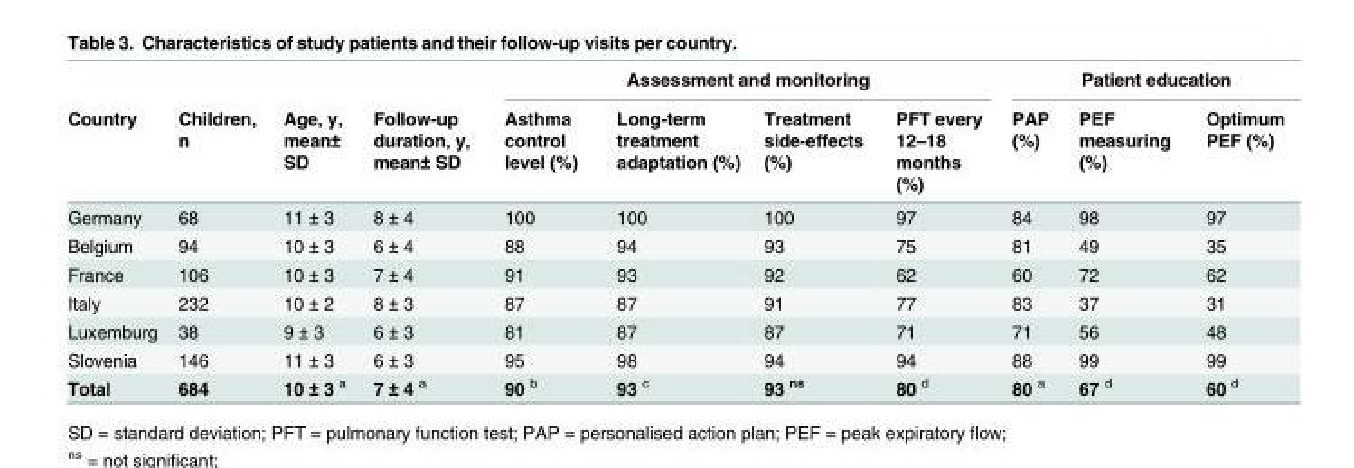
<table><thead><tr><td rowspan="2">Country</td><td rowspan="2">Children, n</td><td rowspan="2">Age, y, mean± SD</td><td rowspan="2">Follow-up duration, y, mean± SD</td><td colspan="4">Assessment and monitoring</td><td colspan="3">Patient education</td></tr><tr><td>Asthma control level (%)</td><td>Long-term treatment adaptation (%)</td><td>Treatment side-effects (%)</td><td>PFT every 12–18 months (%)</td><td>PAP (%)</td><td>PEF measuring (%)</td><td>Optimum PEF (%)</td></tr></thead><tbody><tr><td>Germany</td><td>68</td><td>11 ± 3</td><td>8 ± 4</td><td>100</td><td>100</td><td>100</td><td>97</td><td>84</td><td>98</td><td>97</td></tr><tr><td>Belgium</td><td>94</td><td>10 ± 3</td><td>6 ± 4</td><td>88</td><td>94</td><td>93</td><td>75</td><td>81</td><td>49</td><td>35</td></tr><tr><td>France</td><td>106</td><td>10 ± 3</td><td>7 ± 4</td><td>91</td><td>93</td><td>92</td><td>62</td><td>60</td><td>72</td><td>62</td></tr><tr><td>Italy</td><td>232</td><td>10 ± 2</td><td>8 ± 3</td><td>87</td><td>87</td><td>91</td><td>77</td><td>83</td><td>37</td><td>31</td></tr><tr><td>Luxemburg</td><td>38</td><td>9 ± 3</td><td>6 ± 3</td><td>81</td><td>87</td><td>87</td><td>71</td><td>71</td><td>56</td><td>48</td></tr><tr><td>Slovenia</td><td>146</td><td>11 ± 3</td><td>6 ± 3</td><td>95</td><td>98</td><td>94</td><td>94</td><td>88</td><td>99</td><td>99</td></tr><tr><td>Total</td><td>684</td><td>10 ± 3 <sup>a</sup></td><td>7 ± 4 <sup>a</sup></td><td>90 <sup>b</sup></td><td>93 <sup>c</sup></td><td>93 <sup>ns</sup></td><td>80 <sup>d</sup></td><td>80 <sup>a</sup></td><td>67 <sup>d</sup></td><td>60 <sup>d</sup></td></tr></tbody></table>